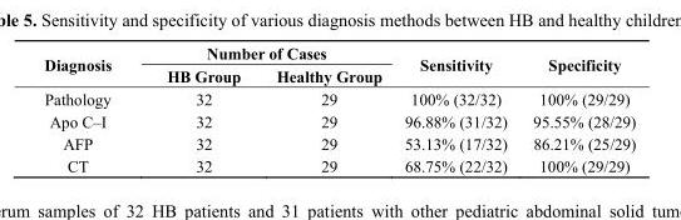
<table><thead><tr><td rowspan="2">Diagnosis</td><td colspan="2">Number of Cases</td><td rowspan="2">Sensitivity</td><td rowspan="2">Specificity</td></tr><tr><td>HB Group</td><td>Healthy Group</td></tr></thead><tbody><tr><td>Pathology</td><td>32</td><td>29</td><td>100% (32/32)</td><td>100% (29/29)</td></tr><tr><td>Apo C–I</td><td>32</td><td>29</td><td>96.88% (31/32)</td><td>95.55% (28/29)</td></tr><tr><td>AFP</td><td>32</td><td>29</td><td>53.13% (17/32)</td><td>86.21% (25/29)</td></tr><tr><td>CT</td><td>32</td><td>29</td><td>68.75% (22/32)</td><td>100% (29/29)</td></tr></tbody></table>